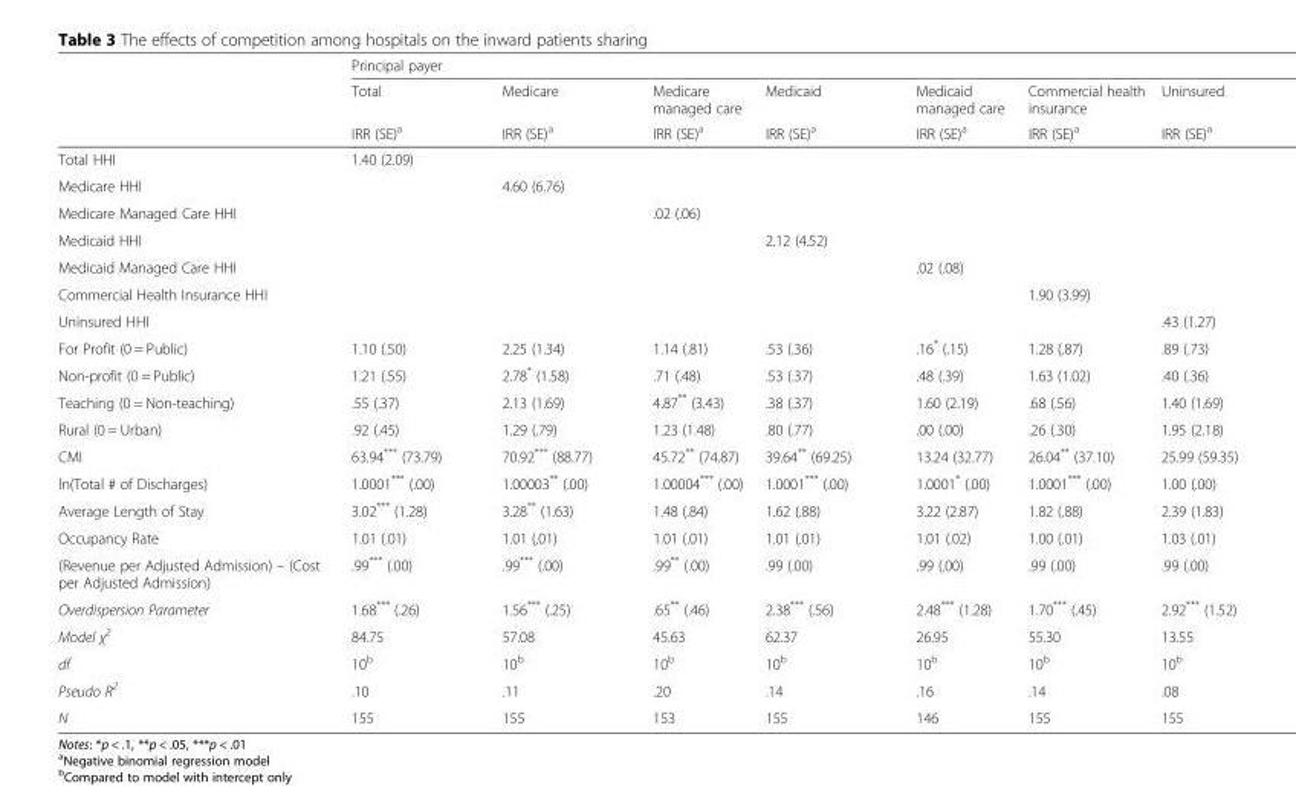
<table><thead><tr><td rowspan="3"></td><td colspan="7">Principal payer</td></tr><tr><td rowspan="2">Total IRR (SE)<sup>a</sup></td><td rowspan="2">Medicare IRR (SE)<sup>a</sup></td><td rowspan="2">Medicare managed care IRR (SE)<sup>a</sup></td><td rowspan="2">Medicaid IRR (SE)<sup>a</sup></td><td rowspan="2">Medicaid managed care IRR (SE)<sup>a</sup></td><td rowspan="2">Commercial health insurance IRR (SE)<sup>a</sup></td><td rowspan="2">Uninsured IRR (SE)<sup>a</sup></td></tr><tr></tr></thead><tbody><tr><td>Total HHI</td><td>1.40 (2.09)</td><td></td><td></td><td></td><td></td><td></td><td></td></tr><tr><td>Medicare HHI</td><td></td><td>4.60 (6.76)</td><td></td><td></td><td></td><td></td><td></td></tr><tr><td>Medicare Managed Care HHI</td><td></td><td></td><td>.02 (.06)</td><td></td><td></td><td></td><td></td></tr><tr><td>Medicaid HHI</td><td></td><td></td><td></td><td>2.12 (4.52)</td><td></td><td></td><td></td></tr><tr><td>Medicaid Managed Care HHI</td><td></td><td></td><td></td><td></td><td>.02 (.08)</td><td></td><td></td></tr><tr><td>Commercial Health Insurance HHI</td><td></td><td></td><td></td><td></td><td></td><td>1.90 (3.99)</td><td></td></tr><tr><td>Uninsured HHI</td><td></td><td></td><td></td><td></td><td></td><td></td><td>.43 (1.27)</td></tr><tr><td>For Profit (0 = Public)</td><td>1.10 (.50)</td><td>2.25 (1.34)</td><td>1.14 (.81)</td><td>.53 (.36)</td><td>.16* (.15)</td><td>1.28 (.87)</td><td>.89 (.73)</td></tr><tr><td>Non-profit (0 = Public)</td><td>1.21 (.55)</td><td>2.78* (1.58)</td><td>.71 (.48)</td><td>.53 (.37)</td><td>.48 (.39)</td><td>1.63 (1.02)</td><td>.40 (.36)</td></tr><tr><td>Teaching (0 = Non-teaching)</td><td>.55 (.37)</td><td>2.13 (1.69)</td><td>4.87** (3.43)</td><td>.38 (.37)</td><td>1.60 (2.19)</td><td>.68 (.56)</td><td>1.40 (1.69)</td></tr><tr><td>Rural (0 = Urban)</td><td>.92 (.45)</td><td>1.29 (.79)</td><td>1.23 (1.48)</td><td>.80 (.77)</td><td>.00 (.00)</td><td>.26 (.30)</td><td>1.95 (2.18)</td></tr><tr><td>CMI</td><td>63.94*** (73.79)</td><td>70.92*** (88.77)</td><td>45.72** (74.87)</td><td>39.64** (69.25)</td><td>13.24 (32.77)</td><td>26.04** (37.10)</td><td>25.99 (59.35)</td></tr><tr><td>ln(Total # of Discharges)</td><td>1.0001*** (.00)</td><td>1.00003** (.00)</td><td>1.00004*** (.00)</td><td>1.0001*** (.00)</td><td>1.0001* (.00)</td><td>1.0001*** (.00)</td><td>1.00 (.00)</td></tr><tr><td>Average Length of Stay</td><td>3.02*** (1.28)</td><td>3.28** (1.63)</td><td>1.48 (.84)</td><td>1.62 (.88)</td><td>3.22 (2.87)</td><td>1.82 (.88)</td><td>2.39 (1.83)</td></tr><tr><td>Occupancy Rate</td><td>1.01 (.01)</td><td>1.01 (.01)</td><td>1.01 (.01)</td><td>1.01 (.01)</td><td>1.01 (.02)</td><td>1.00 (.01)</td><td>1.03 (.01)</td></tr><tr><td>(Revenue per Adjusted Admission) – (Cost per Adjusted Admission)</td><td>.99*** (.00)</td><td>.99*** (.00)</td><td>.99** (.00)</td><td>.99 (.00)</td><td>.99 (.00)</td><td>.99 (.00)</td><td>.99 (.00)</td></tr><tr><td>Overdispersion Parameter</td><td>1.68*** (.26)</td><td>1.56*** (.25)</td><td>.65** (.46)</td><td>2.38*** (.56)</td><td>2.48*** (1.28)</td><td>1.70*** (.45)</td><td>2.92*** (1.52)</td></tr><tr><td>Model χ<sup>2</sup></td><td>84.75</td><td>57.08</td><td>45.63</td><td>62.37</td><td>26.95</td><td>55.30</td><td>13.55</td></tr><tr><td>df</td><td>10<sup>b</sup></td><td>10<sup>b</sup></td><td>10<sup>b</sup></td><td>10<sup>b</sup></td><td>10<sup>b</sup></td><td>10<sup>b</sup></td><td>10<sup>b</sup></td></tr><tr><td>Pseudo R<sup>2</sup></td><td>.10</td><td>.11</td><td>.20</td><td>.14</td><td>.16</td><td>.14</td><td>.08</td></tr><tr><td>N</td><td>155</td><td>155</td><td>153</td><td>155</td><td>146</td><td>155</td><td>155</td></tr></tbody></table>